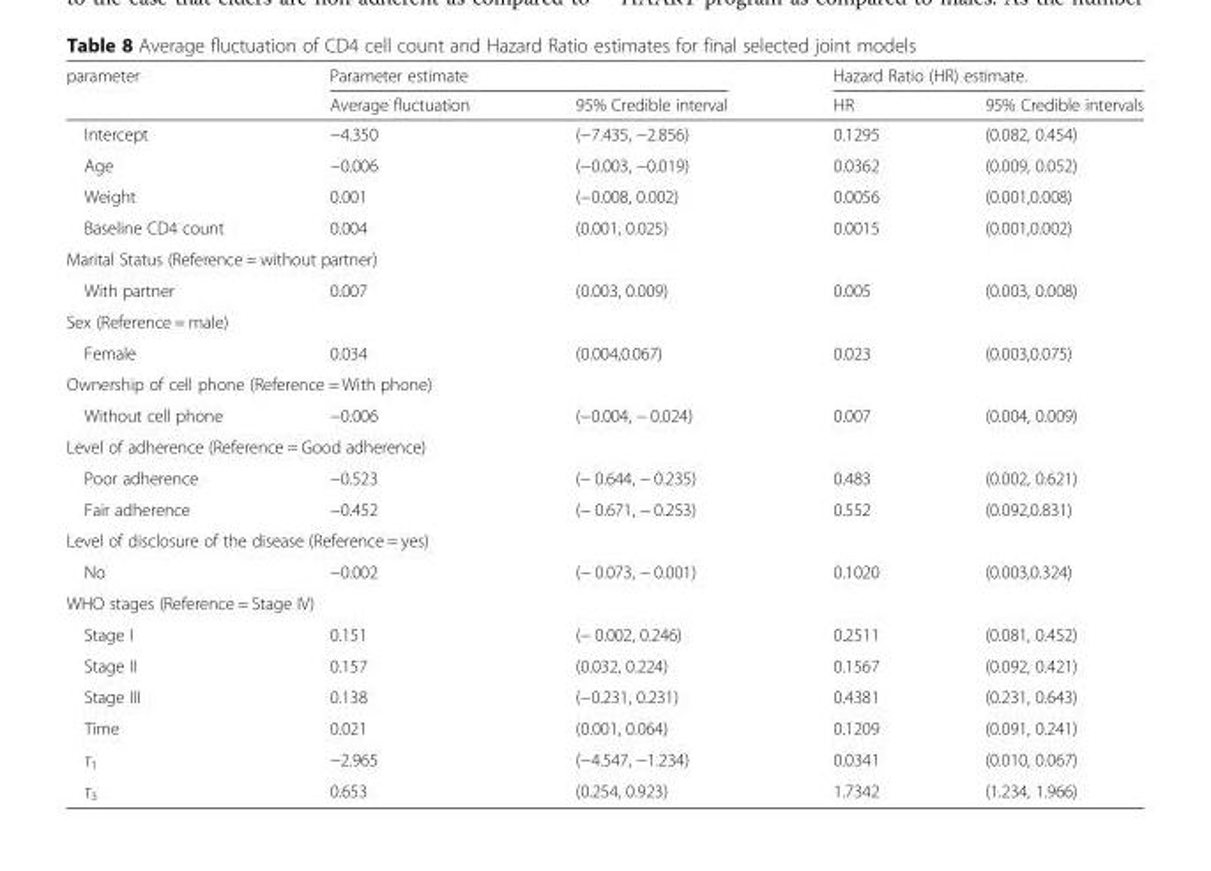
<table><thead><tr><td rowspan="2">parameter</td><td colspan="2">Parameter estimate</td><td colspan="2">Hazard Ratio (HR) estimate.</td></tr><tr><td>Average fluctuation</td><td>95% Credible interval</td><td>HR</td><td>95% Credible intervals</td></tr></thead><tbody><tr><td>Intercept</td><td>−4.350</td><td>(−7.435, −2.856)</td><td>0.1295</td><td>(0.082, 0.454)</td></tr><tr><td>Age</td><td>−0.006</td><td>(−0.003, −0.019)</td><td>0.0362</td><td>(0.009, 0.052)</td></tr><tr><td>Weight</td><td>0.001</td><td>(−0.008, 0.002)</td><td>0.0056</td><td>(0.001,0.008)</td></tr><tr><td>Baseline CD4 count</td><td>0.004</td><td>(0.001, 0.025)</td><td>0.0015</td><td>(0.001,0.002)</td></tr><tr><td colspan="5">Marital Status (Reference = without partner)</td></tr><tr><td>With partner</td><td>0.007</td><td>(0.003, 0.009)</td><td>0.005</td><td>(0.003, 0.008)</td></tr><tr><td colspan="5">Sex (Reference = male)</td></tr><tr><td>Female</td><td>0.034</td><td>(0.004,0.067)</td><td>0.023</td><td>(0.003,0.075)</td></tr><tr><td colspan="5">Ownership of cell phone (Reference = With phone)</td></tr><tr><td>Without cell phone</td><td>−0.006</td><td>(−0.004, − 0.024)</td><td>0.007</td><td>(0.004, 0.009)</td></tr><tr><td colspan="5">Level of adherence (Reference = Good adherence)</td></tr><tr><td>Poor adherence</td><td>−0.523</td><td>(− 0.644, − 0.235)</td><td>0.483</td><td>(0.002, 0.621)</td></tr><tr><td>Fair adherence</td><td>−0.452</td><td>(− 0.671, − 0.253)</td><td>0.552</td><td>(0.092,0.831)</td></tr><tr><td colspan="5">Level of disclosure of the disease (Reference = yes)</td></tr><tr><td>No</td><td>−0.002</td><td>(− 0.073, − 0.001)</td><td>0.1020</td><td>(0.003,0.324)</td></tr><tr><td colspan="5">WHO stages (Reference = Stage IV)</td></tr><tr><td>Stage I</td><td>0.151</td><td>(− 0.002, 0.246)</td><td>0.2511</td><td>(0.081, 0.452)</td></tr><tr><td>Stage II</td><td>0.157</td><td>(0.032, 0.224)</td><td>0.1567</td><td>(0.092, 0.421)</td></tr><tr><td>Stage III</td><td>0.138</td><td>(−0.231, 0.231)</td><td>0.4381</td><td>(0.231, 0.643)</td></tr><tr><td>Time</td><td>0.021</td><td>(0.001, 0.064)</td><td>0.1209</td><td>(0.091, 0.241)</td></tr><tr><td>τ<sub>1</sub></td><td>−2.965</td><td>(−4.547, −1.234)</td><td>0.0341</td><td>(0.010, 0.067)</td></tr><tr><td>τ<sub>3</sub></td><td>0.653</td><td>(0.254, 0.923)</td><td>1.7342</td><td>(1.234, 1.966)</td></tr></tbody></table>